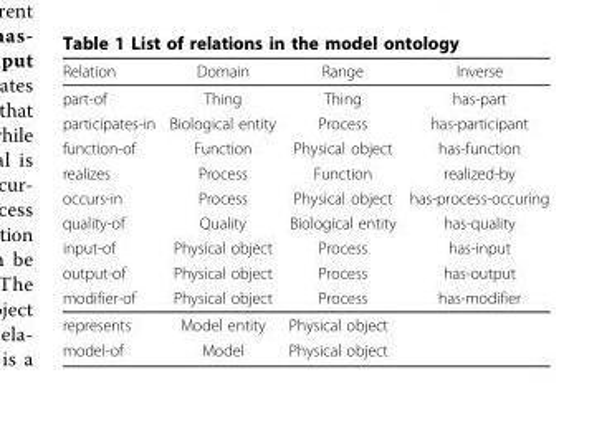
<table><thead><tr><td>Relation</td><td>Domain</td><td>Range</td><td>Inverse</td></tr></thead><tbody><tr><td>part-of</td><td>Thing</td><td>Thing</td><td>has-part</td></tr><tr><td>participates-in</td><td>Biological entity</td><td>Process</td><td>has-participant</td></tr><tr><td>function-of</td><td>Function</td><td>Physical object</td><td>has-function</td></tr><tr><td>realizes</td><td>Process</td><td>Function</td><td>realized-by</td></tr><tr><td>occurs-in</td><td>Process</td><td>Physical object</td><td>has-process-occuring</td></tr><tr><td>quality-of</td><td>Quality</td><td>Biological entity</td><td>has-quality</td></tr><tr><td>input-of</td><td>Physical object</td><td>Process</td><td>has-input</td></tr><tr><td>output-of</td><td>Physical object</td><td>Process</td><td>has-output</td></tr><tr><td>modifier-of</td><td>Physical object</td><td>Process</td><td>has-modifier</td></tr><tr><td>represents</td><td>Model entity</td><td colspan="2">Physical object</td></tr><tr><td>model-of</td><td>Model</td><td colspan="2">Physical object</td></tr></tbody></table>